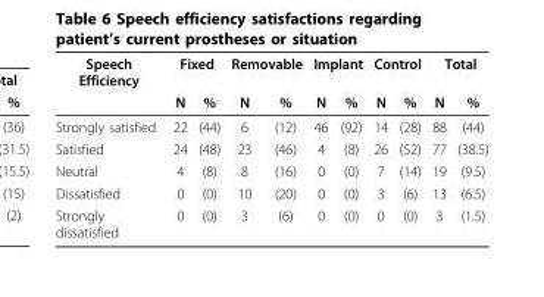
<table><thead><tr><td rowspan="2">Speech Efficiency</td><td colspan="2">Fixed</td><td colspan="2">Removable</td><td colspan="2">Implant</td><td colspan="2">Control</td><td colspan="2">Total</td></tr><tr><td>N</td><td>%</td><td>N</td><td>%</td><td>N</td><td>%</td><td>N</td><td>%</td><td>N</td><td>%</td></tr></thead><tbody><tr><td>Strongly satisfied</td><td>22</td><td>(44)</td><td>6</td><td>(12)</td><td>46</td><td>(92)</td><td>14</td><td>(28)</td><td>88</td><td>(44)</td></tr><tr><td>Satisfied</td><td>24</td><td>(48)</td><td>23</td><td>(46)</td><td>4</td><td>(8)</td><td>26</td><td>(52)</td><td>77</td><td>(38.5)</td></tr><tr><td>Neutral</td><td>4</td><td>(8)</td><td>8</td><td>(16)</td><td>0</td><td>(0)</td><td>7</td><td>(14)</td><td>19</td><td>(9.5)</td></tr><tr><td>Dissatisfied</td><td>0</td><td>(0)</td><td>10</td><td>(20)</td><td>0</td><td>(0)</td><td>3</td><td>(6)</td><td>13</td><td>(6.5)</td></tr><tr><td>Strongly dissatisfied</td><td>0</td><td>(0)</td><td>3</td><td>(6)</td><td>0</td><td>(0)</td><td>0</td><td>(0)</td><td>3</td><td>(1.5)</td></tr></tbody></table>